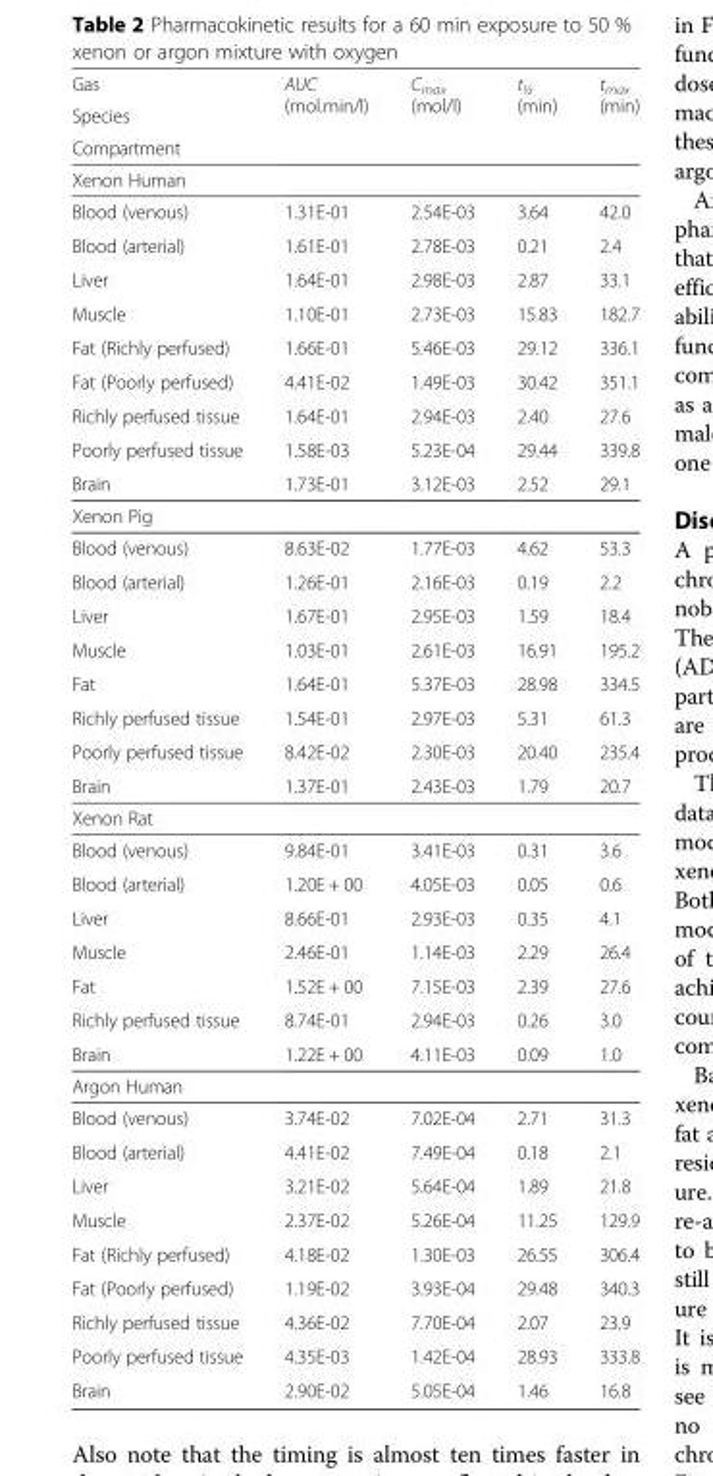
<table><thead><tr><td rowspan="3">Gas Species Compartment</td><td rowspan="3">AUC (mol.min/l)</td><td rowspan="3">C<sub>max</sub> (mol/l)</td><td rowspan="3">t<sub>½</sub> (min)</td><td rowspan="3">t<sub>max</sub> (min)</td></tr><tr></tr><tr></tr></thead><tbody><tr><td colspan="5">Xenon Human</td></tr><tr><td>Blood (venous)</td><td>1.31E-01</td><td>2.54E-03</td><td>3.64</td><td>42.0</td></tr><tr><td>Blood (arterial)</td><td>1.61E-01</td><td>2.78E-03</td><td>0.21</td><td>2.4</td></tr><tr><td>Liver</td><td>1.64E-01</td><td>2.98E-03</td><td>2.87</td><td>33.1</td></tr><tr><td>Muscle</td><td>1.10E-01</td><td>2.73E-03</td><td>15.83</td><td>182.7</td></tr><tr><td>Fat (Richly perfused)</td><td>1.66E-01</td><td>5.46E-03</td><td>29.12</td><td>336.1</td></tr><tr><td>Fat (Poorly perfused)</td><td>4.41E-02</td><td>1.49E-03</td><td>30.42</td><td>351.1</td></tr><tr><td>Richly perfused tissue</td><td>1.64E-01</td><td>2.94E-03</td><td>2.40</td><td>27.6</td></tr><tr><td>Poorly perfused tissue</td><td>1.58E-03</td><td>5.23E-04</td><td>29.44</td><td>339.8</td></tr><tr><td>Brain</td><td>1.73E-01</td><td>3.12E-03</td><td>2.52</td><td>29.1</td></tr><tr><td colspan="5">Xenon Pig</td></tr><tr><td>Blood (venous)</td><td>8.63E-02</td><td>1.77E-03</td><td>4.62</td><td>53.3</td></tr><tr><td>Blood (arterial)</td><td>1.26E-01</td><td>2.16E-03</td><td>0.19</td><td>2.2</td></tr><tr><td>Liver</td><td>1.67E-01</td><td>2.95E-03</td><td>1.59</td><td>18.4</td></tr><tr><td>Muscle</td><td>1.03E-01</td><td>2.61E-03</td><td>16.91</td><td>195.2</td></tr><tr><td>Fat</td><td>1.64E-01</td><td>5.37E-03</td><td>28.98</td><td>334.5</td></tr><tr><td>Richly perfused tissue</td><td>1.54E-01</td><td>2.97E-03</td><td>5.31</td><td>61.3</td></tr><tr><td>Poorly perfused tissue</td><td>8.42E-02</td><td>2.30E-03</td><td>20.40</td><td>235.4</td></tr><tr><td>Brain</td><td>1.37E-01</td><td>2.43E-03</td><td>1.79</td><td>20.7</td></tr><tr><td colspan="5">Xenon Rat</td></tr><tr><td>Blood (venous)</td><td>9.84E-01</td><td>3.41E-03</td><td>0.31</td><td>3.6</td></tr><tr><td>Blood (arterial)</td><td>1.20E + 00</td><td>4.05E-03</td><td>0.05</td><td>0.6</td></tr><tr><td>Liver</td><td>8.66E-01</td><td>2.93E-03</td><td>0.35</td><td>4.1</td></tr><tr><td>Muscle</td><td>2.46E-01</td><td>1.14E-03</td><td>2.29</td><td>26.4</td></tr><tr><td>Fat</td><td>1.52E + 00</td><td>7.15E-03</td><td>2.39</td><td>27.6</td></tr><tr><td>Richly perfused tissue</td><td>8.74E-01</td><td>2.94E-03</td><td>0.26</td><td>3.0</td></tr><tr><td>Brain</td><td>1.22E + 00</td><td>4.11E-03</td><td>0.09</td><td>1.0</td></tr><tr><td colspan="5">Argon Human</td></tr><tr><td>Blood (venous)</td><td>3.74E-02</td><td>7.02E-04</td><td>2.71</td><td>31.3</td></tr><tr><td>Blood (arterial)</td><td>4.41E-02</td><td>7.49E-04</td><td>0.18</td><td>2.1</td></tr><tr><td>Liver</td><td>3.21E-02</td><td>5.64E-04</td><td>1.89</td><td>21.8</td></tr><tr><td>Muscle</td><td>2.37E-02</td><td>5.26E-04</td><td>11.25</td><td>129.9</td></tr><tr><td>Fat (Richly perfused)</td><td>4.18E-02</td><td>1.30E-03</td><td>26.55</td><td>306.4</td></tr><tr><td>Fat (Poorly perfused)</td><td>1.19E-02</td><td>3.93E-04</td><td>29.48</td><td>340.3</td></tr><tr><td>Richly perfused tissue</td><td>4.36E-02</td><td>7.70E-04</td><td>2.07</td><td>23.9</td></tr><tr><td>Poorly perfused tissue</td><td>4.35E-03</td><td>1.42E-04</td><td>28.93</td><td>333.8</td></tr><tr><td>Brain</td><td>2.90E-02</td><td>5.05E-04</td><td>1.46</td><td>16.8</td></tr></tbody></table>